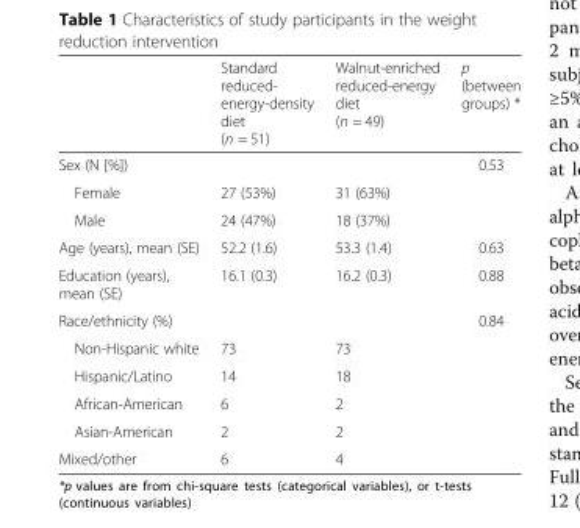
<table><thead><tr><td></td><td>Standard reduced- energy-density diet (n = 51)</td><td>Walnut-enriched reduced-energy diet (n = 49)</td><td>p (between groups) *</td></tr></thead><tbody><tr><td colspan="3">Sex (N [%])</td><td rowspan="3">0.53</td></tr><tr><td>Female</td><td>27 (53%)</td><td>31 (63%)</td></tr><tr><td>Male</td><td>24 (47%)</td><td>18 (37%)</td></tr><tr><td>Age (years), mean (SE)</td><td>52.2 (1.6)</td><td>53.3 (1.4)</td><td>0.63</td></tr><tr><td>Education (years), mean (SE)</td><td>16.1 (0.3)</td><td>16.2 (0.3)</td><td>0.88</td></tr><tr><td colspan="3">Race/ethnicity (%)</td><td rowspan="6">0.84</td></tr><tr><td>Non-Hispanic white</td><td>73</td><td>73</td></tr><tr><td>Hispanic/Latino</td><td>14</td><td>18</td></tr><tr><td>African-American</td><td>6</td><td>2</td></tr><tr><td>Asian-American</td><td>2</td><td>2</td></tr><tr><td>Mixed/other</td><td>6</td><td>4</td></tr></tbody></table>